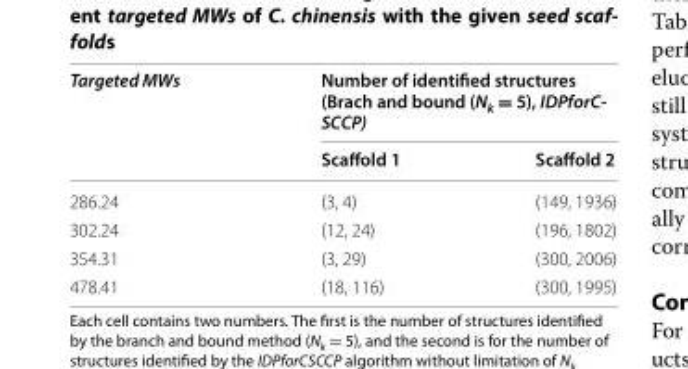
<table><thead><tr><td rowspan="2">Targeted MWs</td><td colspan="2">Number of identified structures (Brach and bound (Nk = 5), IDPforC- SCCP)</td></tr><tr><td>Scaffold 1</td><td>Scaffold 2</td></tr></thead><tbody><tr><td>286.24</td><td>(3, 4)</td><td>(149, 1936)</td></tr><tr><td>302.24</td><td>(12, 24)</td><td>(196, 1802)</td></tr><tr><td>354.31</td><td>(3, 29)</td><td>(300, 2006)</td></tr><tr><td>478.41</td><td>(18, 116)</td><td>(300, 1995)</td></tr></tbody></table>